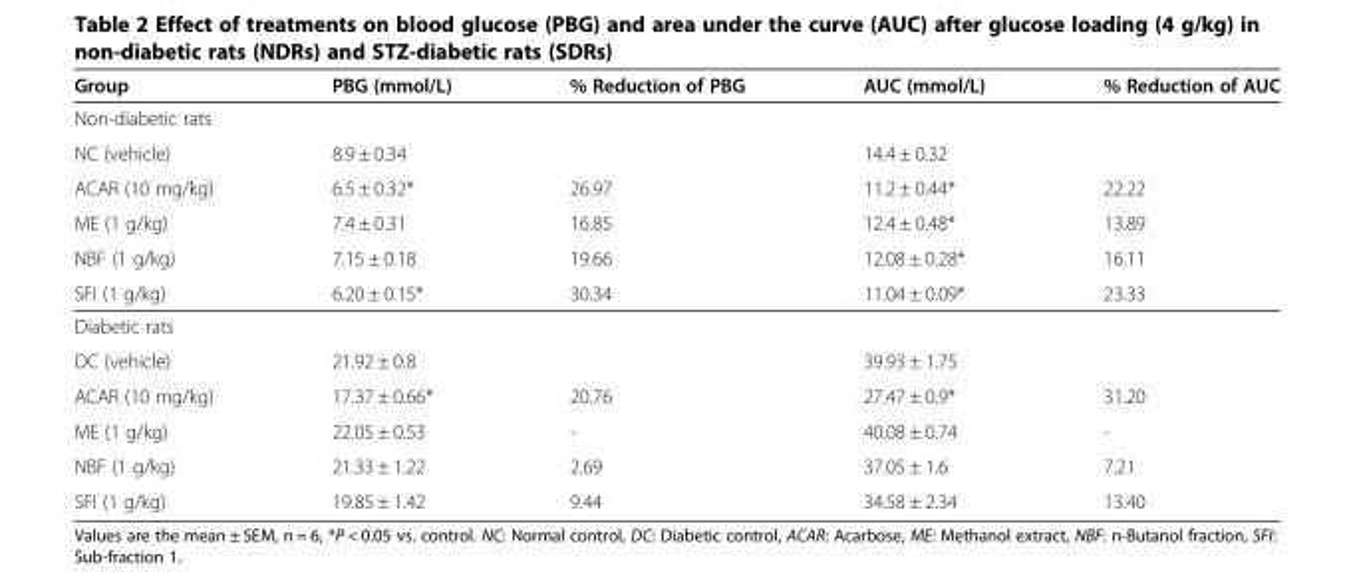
<table><thead><tr><td>Group</td><td>PBG (mmol/L)</td><td>% Reduction of PBG</td><td>AUC (mmol/L)</td><td>% Reduction of AUC</td></tr></thead><tbody><tr><td colspan="5">Non-diabetic rats</td></tr><tr><td>NC (vehicle)</td><td>8.9 ± 0.34</td><td></td><td>14.4 ± 0.32</td><td></td></tr><tr><td>ACAR (10 mg/kg)</td><td>6.5 ± 0.32*</td><td>26.97</td><td>11.2 ± 0.44*</td><td>22.22</td></tr><tr><td>ME (1 g/kg)</td><td>7.4 ± 0.31</td><td>16.85</td><td>12.4 ± 0.48*</td><td>13.89</td></tr><tr><td>NBF (1 g/kg)</td><td>7.15 ± 0.18</td><td>19.66</td><td>12.08 ± 0.28*</td><td>16.11</td></tr><tr><td>SFI (1 g/kg)</td><td>6.20 ± 0.15*</td><td>30.34</td><td>11.04 ± 0.09*</td><td>23.33</td></tr><tr><td colspan="5">Diabetic rats</td></tr><tr><td>DC (vehicle)</td><td>21.92 ± 0.8</td><td></td><td>39.93 ± 1.75</td><td></td></tr><tr><td>ACAR (10 mg/kg)</td><td>17.37 ± 0.66*</td><td>20.76</td><td>27.47 ± 0.9*</td><td>31.20</td></tr><tr><td>ME (1 g/kg)</td><td>22.05 ± 0.53</td><td>-</td><td>40.08 ± 0.74</td><td>-</td></tr><tr><td>NBF (1 g/kg)</td><td>21.33 ± 1.22</td><td>2.69</td><td>37.05 ± 1.6</td><td>7.21</td></tr><tr><td>SFI (1 g/kg)</td><td>19.85 ± 1.42</td><td>9.44</td><td>34.58 ± 2.34</td><td>13.40</td></tr></tbody></table>